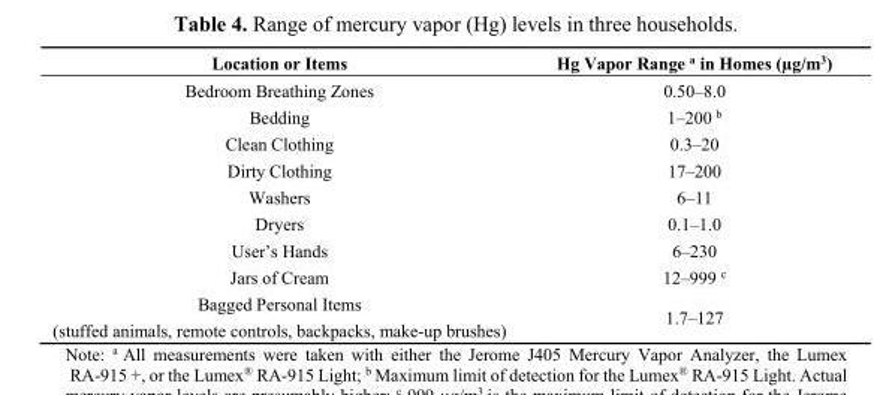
<table><thead><tr><td>Location or Items</td><td>Hg Vapor Range <sup>a</sup> in Homes (µg/m<sup>3</sup>)</td></tr></thead><tbody><tr><td>Bedroom Breathing Zones</td><td>0.50–8.0</td></tr><tr><td>Bedding</td><td>1–200 <sup>b</sup></td></tr><tr><td>Clean Clothing</td><td>0.3–20</td></tr><tr><td>Dirty Clothing</td><td>17–200</td></tr><tr><td>Washers</td><td>6–11</td></tr><tr><td>Dryers</td><td>0.1–1.0</td></tr><tr><td>User’s Hands</td><td>6–230</td></tr><tr><td>Jars of Cream</td><td>12–999 <sup>c</sup></td></tr><tr><td>Bagged Personal Items (stuffed animals, remote controls, backpacks, make-up brushes)</td><td>1.7–127</td></tr></tbody></table>